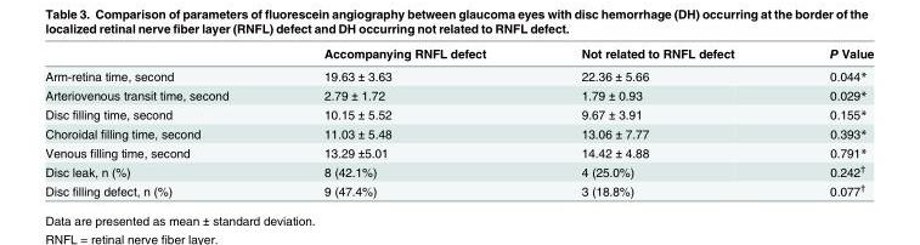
<table><thead><tr><td></td><td>Accompanying RNFL defect</td><td>Not related to RNFL defect</td><td>P Value</td></tr></thead><tbody><tr><td>Arm-retina time, second</td><td>19.63 ± 3.63</td><td>22.36 ± 5.66</td><td>0.044*</td></tr><tr><td>Arteriovenous transit time, second</td><td>2.79 ± 1.72</td><td>1.79 ± 0.93</td><td>0.029*</td></tr><tr><td>Disc filling time, second</td><td>10.15 ± 5.52</td><td>9.67 ± 3.91</td><td>0.155*</td></tr><tr><td>Choroidal filling time, second</td><td>11.03 ± 5.48</td><td>13.06 ± 7.77</td><td>0.393*</td></tr><tr><td>Venous filling time, second</td><td>13.29 ±5.01</td><td>14.42 ± 4.88</td><td>0.791*</td></tr><tr><td>Disc leak, n (%)</td><td>8 (42.1%)</td><td>4 (25.0%)</td><td>0.242<sup>†</sup></td></tr><tr><td>Disc filling defect, n (%)</td><td>9 (47.4%)</td><td>3 (18.8%)</td><td>0.077<sup>†</sup></td></tr></tbody></table>